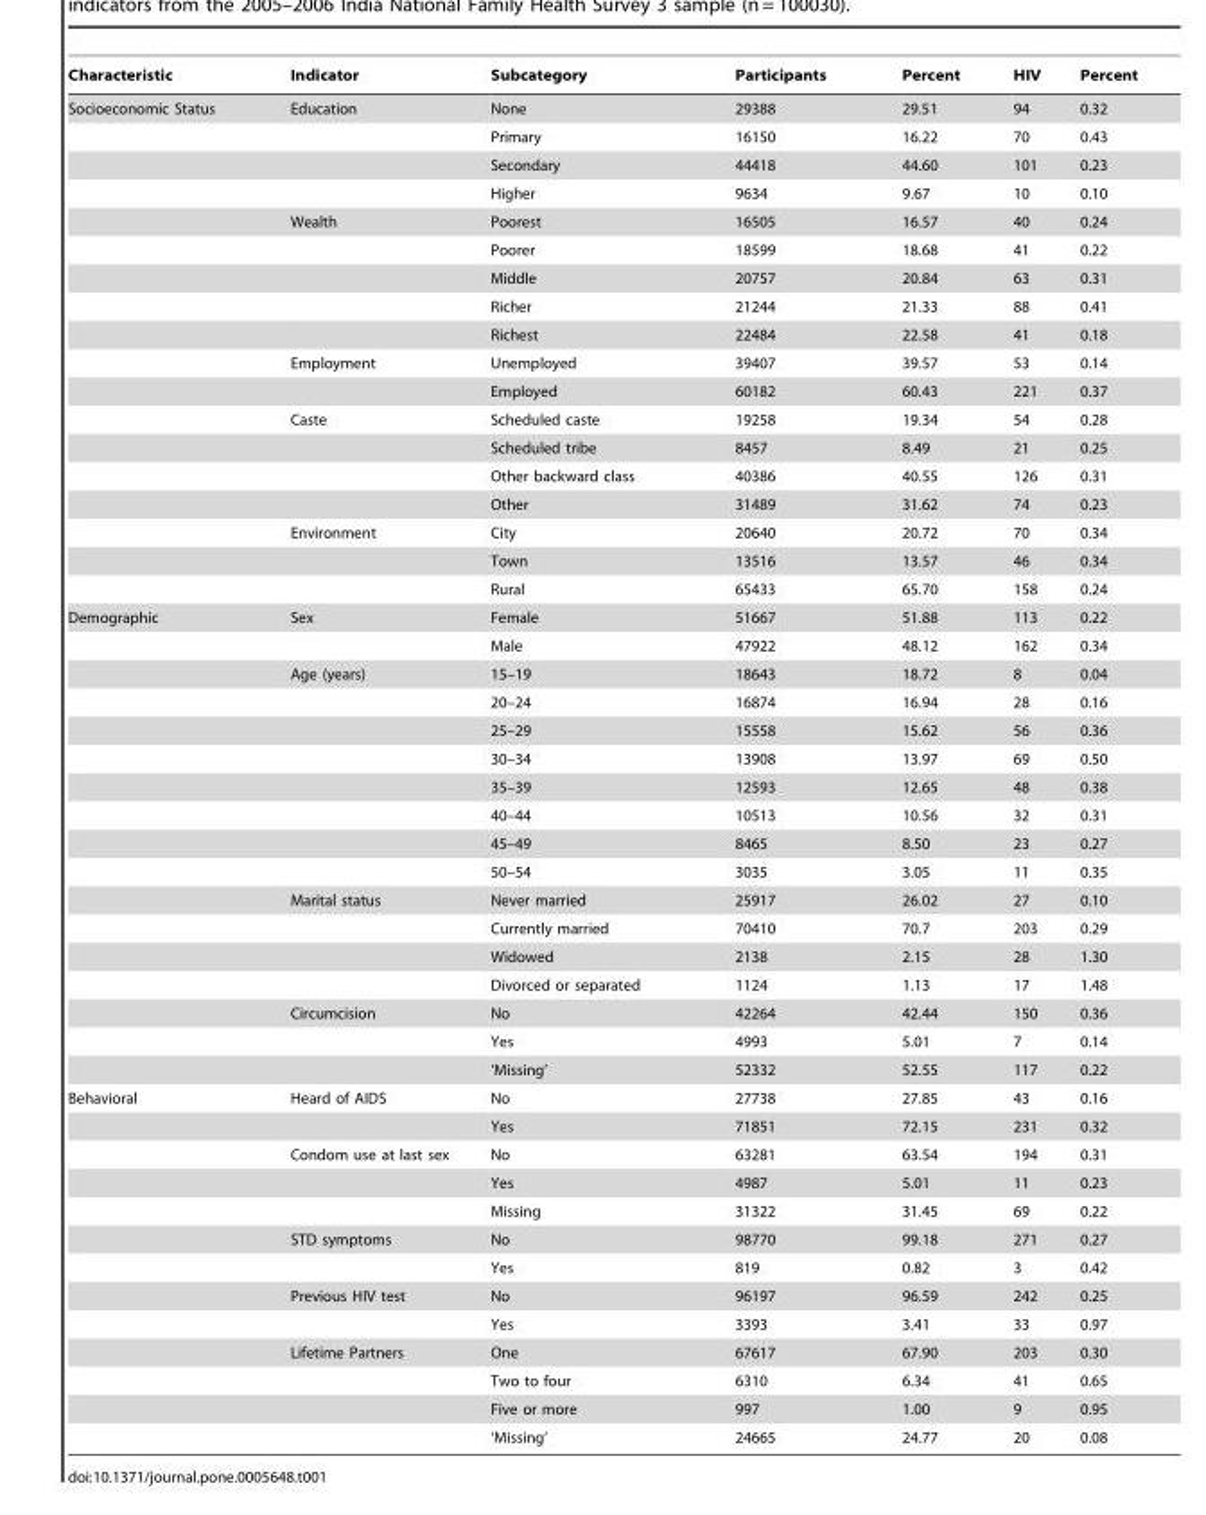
<table><thead><tr><td>Characteristic</td><td>Indicator</td><td>Subcategory</td><td>Participants</td><td>Percent</td><td>HIV</td><td>Percent</td></tr></thead><tbody><tr><td rowspan="18">Socioeconomic Status</td><td>Education</td><td>None</td><td>29388</td><td>29.51</td><td>94</td><td>0.32</td></tr><tr><td></td><td>Primary</td><td>16150</td><td>16.22</td><td>70</td><td>0.43</td></tr><tr><td></td><td>Secondary</td><td>44418</td><td>44.60</td><td>101</td><td>0.23</td></tr><tr><td></td><td>Higher</td><td>9634</td><td>9.67</td><td>10</td><td>0.10</td></tr><tr><td>Wealth</td><td>Poorest</td><td>16505</td><td>16.57</td><td>40</td><td>0.24</td></tr><tr><td></td><td>Poorer</td><td>18599</td><td>18.68</td><td>41</td><td>0.22</td></tr><tr><td></td><td>Middle</td><td>20757</td><td>20.84</td><td>63</td><td>0.31</td></tr><tr><td></td><td>Richer</td><td>21244</td><td>21.33</td><td>88</td><td>0.41</td></tr><tr><td></td><td>Richest</td><td>22484</td><td>22.58</td><td>41</td><td>0.18</td></tr><tr><td>Employment</td><td>Unemployed</td><td>39407</td><td>39.57</td><td>53</td><td>0.14</td></tr><tr><td></td><td>Employed</td><td>60182</td><td>60.43</td><td>221</td><td>0.37</td></tr><tr><td>Caste</td><td>Scheduled caste</td><td>19258</td><td>19.34</td><td>54</td><td>0.28</td></tr><tr><td></td><td>Scheduled tribe</td><td>8457</td><td>8.49</td><td>21</td><td>0.25</td></tr><tr><td></td><td>Other backward class</td><td>40386</td><td>40.55</td><td>126</td><td>0.31</td></tr><tr><td></td><td>Other</td><td>31489</td><td>31.62</td><td>74</td><td>0.23</td></tr><tr><td>Environment</td><td>City</td><td>20640</td><td>20.72</td><td>70</td><td>0.34</td></tr><tr><td></td><td>Town</td><td>13516</td><td>13.57</td><td>46</td><td>0.34</td></tr><tr><td></td><td>Rural</td><td>65433</td><td>65.70</td><td>158</td><td>0.24</td></tr><tr><td rowspan="17">Demographic</td><td>Sex</td><td>Female</td><td>51667</td><td>51.88</td><td>113</td><td>0.22</td></tr><tr><td></td><td>Male</td><td>47922</td><td>48.12</td><td>162</td><td>0.34</td></tr><tr><td>Age (years)</td><td>15–19</td><td>18643</td><td>18.72</td><td>8</td><td>0.04</td></tr><tr><td></td><td>20–24</td><td>16874</td><td>16.94</td><td>28</td><td>0.16</td></tr><tr><td></td><td>25–29</td><td>15558</td><td>15.62</td><td>56</td><td>0.36</td></tr><tr><td></td><td>30–34</td><td>13908</td><td>13.97</td><td>69</td><td>0.50</td></tr><tr><td></td><td>35–39</td><td>12593</td><td>12.65</td><td>48</td><td>0.38</td></tr><tr><td></td><td>40–44</td><td>10513</td><td>10.56</td><td>32</td><td>0.31</td></tr><tr><td></td><td>45–49</td><td>8465</td><td>8.50</td><td>23</td><td>0.27</td></tr><tr><td></td><td>50–54</td><td>3035</td><td>3.05</td><td>11</td><td>0.35</td></tr><tr><td>Marital status</td><td>Never married</td><td>25917</td><td>26.02</td><td>27</td><td>0.10</td></tr><tr><td></td><td>Currently married</td><td>70410</td><td>70.7</td><td>203</td><td>0.29</td></tr><tr><td></td><td>Widowed</td><td>2138</td><td>2.15</td><td>28</td><td>1.30</td></tr><tr><td></td><td>Divorced or separated</td><td>1124</td><td>1.13</td><td>17</td><td>1.48</td></tr><tr><td>Circumcision</td><td>No</td><td>42264</td><td>42.44</td><td>150</td><td>0.36</td></tr><tr><td></td><td>Yes</td><td>4993</td><td>5.01</td><td>7</td><td>0.14</td></tr><tr><td></td><td>‘Missing’</td><td>52332</td><td>52.55</td><td>117</td><td>0.22</td></tr><tr><td rowspan="13">Behavioral</td><td>Heard of AIDS</td><td>No</td><td>27738</td><td>27.85</td><td>43</td><td>0.16</td></tr><tr><td></td><td>Yes</td><td>71851</td><td>72.15</td><td>231</td><td>0.32</td></tr><tr><td>Condom use at last sex</td><td>No</td><td>63281</td><td>63.54</td><td>194</td><td>0.31</td></tr><tr><td></td><td>Yes</td><td>4987</td><td>5.01</td><td>11</td><td>0.23</td></tr><tr><td></td><td>Missing</td><td>31322</td><td>31.45</td><td>69</td><td>0.22</td></tr><tr><td>STD symptoms</td><td>No</td><td>98770</td><td>99.18</td><td>271</td><td>0.27</td></tr><tr><td></td><td>Yes</td><td>819</td><td>0.82</td><td>3</td><td>0.42</td></tr><tr><td>Previous HIV test</td><td>No</td><td>96197</td><td>96.59</td><td>242</td><td>0.25</td></tr><tr><td></td><td>Yes</td><td>3393</td><td>3.41</td><td>33</td><td>0.97</td></tr><tr><td>Lifetime Partners</td><td>One</td><td>67617</td><td>67.90</td><td>203</td><td>0.30</td></tr><tr><td></td><td>Two to four</td><td>6310</td><td>6.34</td><td>41</td><td>0.65</td></tr><tr><td></td><td>Five or more</td><td>997</td><td>1.00</td><td>9</td><td>0.95</td></tr><tr><td></td><td>‘Missing’</td><td>24665</td><td>24.77</td><td>20</td><td>0.08</td></tr></tbody></table>